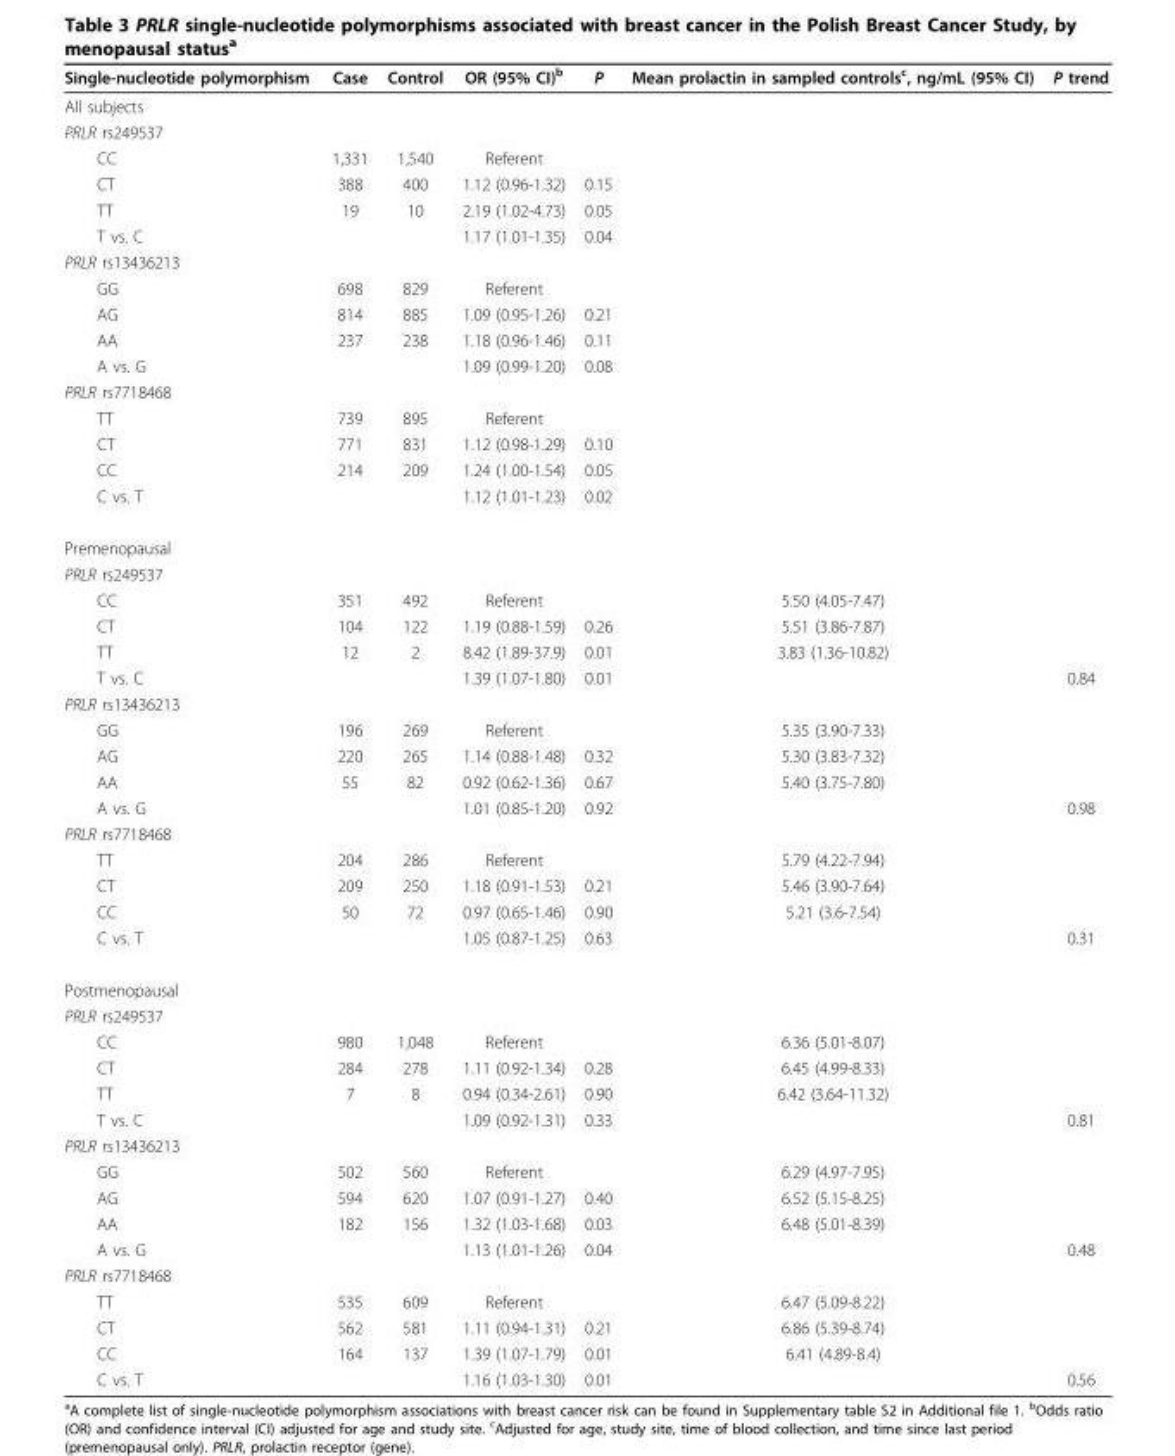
<table><thead><tr><td>Single-nucleotide polymorphism</td><td>Case</td><td>Control</td><td>OR (95% CI)<sup>b</sup></td><td>P</td><td>Mean prolactin in sampled controls<sup>c</sup>, ng/mL (95% CI)</td><td>P trend</td></tr></thead><tbody><tr><td colspan="7">All subjects</td></tr><tr><td colspan="7">PRLR rs249537</td></tr><tr><td>CC</td><td>1,331</td><td>1,540</td><td>Referent</td><td></td><td></td><td></td></tr><tr><td>CT</td><td>388</td><td>400</td><td>1.12 (0.96-1.32)</td><td>0.15</td><td></td><td></td></tr><tr><td>TT</td><td>19</td><td>10</td><td>2.19 (1.02-4.73)</td><td>0.05</td><td></td><td></td></tr><tr><td>T vs. C</td><td></td><td></td><td>1.17 (1.01-1.35)</td><td>0.04</td><td></td><td></td></tr><tr><td colspan="7">PRLR rs13436213</td></tr><tr><td>GG</td><td>698</td><td>829</td><td>Referent</td><td></td><td></td><td></td></tr><tr><td>AG</td><td>814</td><td>885</td><td>1.09 (0.95-1.26)</td><td>0.21</td><td></td><td></td></tr><tr><td>AA</td><td>237</td><td>238</td><td>1.18 (0.96-1.46)</td><td>0.11</td><td></td><td></td></tr><tr><td>A vs. G</td><td></td><td></td><td>1.09 (0.99-1.20)</td><td>0.08</td><td></td><td></td></tr><tr><td colspan="7">PRLR rs7718468</td></tr><tr><td>TT</td><td>739</td><td>895</td><td>Referent</td><td></td><td></td><td></td></tr><tr><td>CT</td><td>771</td><td>831</td><td>1.12 (0.98-1.29)</td><td>0.10</td><td></td><td></td></tr><tr><td>CC</td><td>214</td><td>209</td><td>1.24 (1.00-1.54)</td><td>0.05</td><td></td><td></td></tr><tr><td>C vs. T</td><td></td><td></td><td>1.12 (1.01-1.23)</td><td>0.02</td><td></td><td></td></tr><tr><td colspan="7">Premenopausal</td></tr><tr><td colspan="7">PRLR rs249537</td></tr><tr><td>CC</td><td>351</td><td>492</td><td>Referent</td><td></td><td>5.50 (4.05-7.47)</td><td></td></tr><tr><td>CT</td><td>104</td><td>122</td><td>1.19 (0.88-1.59)</td><td>0.26</td><td>5.51 (3.86-7.87)</td><td></td></tr><tr><td>TT</td><td>12</td><td>2</td><td>8.42 (1.89-37.9)</td><td>0.01</td><td>3.83 (1.36-10.82)</td><td></td></tr><tr><td>T vs. C</td><td></td><td></td><td>1.39 (1.07-1.80)</td><td>0.01</td><td></td><td>0.84</td></tr><tr><td colspan="7">PRLR rs13436213</td></tr><tr><td>GG</td><td>196</td><td>269</td><td>Referent</td><td></td><td>5.35 (3.90-7.33)</td><td></td></tr><tr><td>AG</td><td>220</td><td>265</td><td>1.14 (0.88-1.48)</td><td>0.32</td><td>5.30 (3.83-7.32)</td><td></td></tr><tr><td>AA</td><td>55</td><td>82</td><td>0.92 (0.62-1.36)</td><td>0.67</td><td>5.40 (3.75-7.80)</td><td></td></tr><tr><td>A vs. G</td><td></td><td></td><td>1.01 (0.85-1.20)</td><td>0.92</td><td></td><td>0.98</td></tr><tr><td colspan="7">PRLR rs7718468</td></tr><tr><td>TT</td><td>204</td><td>286</td><td>Referent</td><td></td><td>5.79 (4.22-7.94)</td><td></td></tr><tr><td>CT</td><td>209</td><td>250</td><td>1.18 (0.91-1.53)</td><td>0.21</td><td>5.46 (3.90-7.64)</td><td></td></tr><tr><td>CC</td><td>50</td><td>72</td><td>0.97 (0.65-1.46)</td><td>0.90</td><td>5.21 (3.6-7.54)</td><td></td></tr><tr><td>C vs. T</td><td></td><td></td><td>1.05 (0.87-1.25)</td><td>0.63</td><td></td><td>0.31</td></tr><tr><td colspan="7">Postmenopausal</td></tr><tr><td colspan="7">PRLR rs249537</td></tr><tr><td>CC</td><td>980</td><td>1,048</td><td>Referent</td><td></td><td>6.36 (5.01-8.07)</td><td></td></tr><tr><td>CT</td><td>284</td><td>278</td><td>1.11 (0.92-1.34)</td><td>0.28</td><td>6.45 (4.99-8.33)</td><td></td></tr><tr><td>TT</td><td>7</td><td>8</td><td>0.94 (0.34-2.61)</td><td>0.90</td><td>6.42 (3.64-11.32)</td><td></td></tr><tr><td>T vs. C</td><td></td><td></td><td>1.09 (0.92-1.31)</td><td>0.33</td><td></td><td>0.81</td></tr><tr><td colspan="7">PRLR rs13436213</td></tr><tr><td>GG</td><td>502</td><td>560</td><td>Referent</td><td></td><td>6.29 (4.97-7.95)</td><td></td></tr><tr><td>AG</td><td>594</td><td>620</td><td>1.07 (0.91-1.27)</td><td>0.40</td><td>6.52 (5.15-8.25)</td><td></td></tr><tr><td>AA</td><td>182</td><td>156</td><td>1.32 (1.03-1.68)</td><td>0.03</td><td>6.48 (5.01-8.39)</td><td></td></tr><tr><td>A vs. G</td><td></td><td></td><td>1.13 (1.01-1.26)</td><td>0.04</td><td></td><td>0.48</td></tr><tr><td colspan="7">PRLR rs7718468</td></tr><tr><td>TT</td><td>535</td><td>609</td><td>Referent</td><td></td><td>6.47 (5.09-8.22)</td><td></td></tr><tr><td>CT</td><td>562</td><td>581</td><td>1.11 (0.94-1.31)</td><td>0.21</td><td>6.86 (5.39-8.74)</td><td></td></tr><tr><td>CC</td><td>164</td><td>137</td><td>1.39 (1.07-1.79)</td><td>0.01</td><td>6.41 (4.89-8.4)</td><td></td></tr><tr><td>C vs. T</td><td></td><td></td><td>1.16 (1.03-1.30)</td><td>0.01</td><td></td><td>0.56</td></tr></tbody></table>